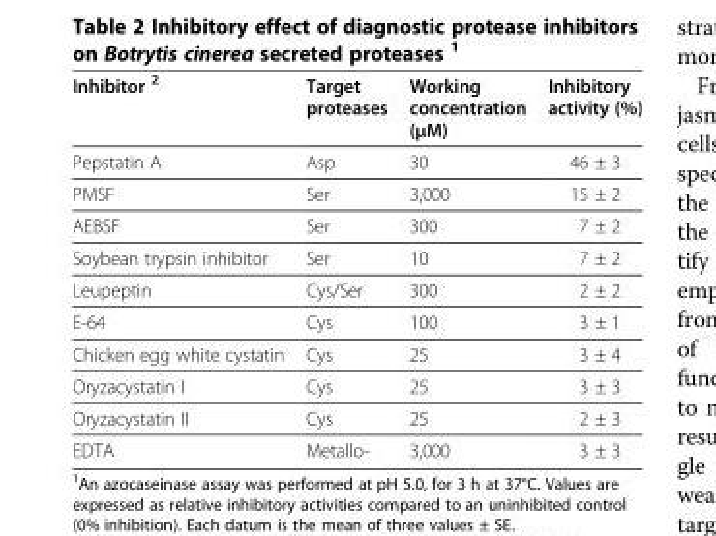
<table><thead><tr><td>Inhibitor <sup>2</sup></td><td>Target proteases</td><td>Working concentration (μM)</td><td>Inhibitory activity (%)</td></tr></thead><tbody><tr><td>Pepstatin A</td><td>Asp</td><td>30</td><td>46 ± 3</td></tr><tr><td>PMSF</td><td>Ser</td><td>3,000</td><td>15 ± 2</td></tr><tr><td>AEBSF</td><td>Ser</td><td>300</td><td>7 ± 2</td></tr><tr><td>Soybean trypsin inhibitor</td><td>Ser</td><td>10</td><td>7 ± 2</td></tr><tr><td>Leupeptin</td><td>Cys/Ser</td><td>300</td><td>2 ± 2</td></tr><tr><td>E-64</td><td>Cys</td><td>100</td><td>3 ± 1</td></tr><tr><td>Chicken egg white cystatin</td><td>Cys</td><td>25</td><td>3 ± 4</td></tr><tr><td>Oryzacystatin I</td><td>Cys</td><td>25</td><td>3 ± 3</td></tr><tr><td>Oryzacystatin II</td><td>Cys</td><td>25</td><td>2 ± 3</td></tr><tr><td>EDTA</td><td>Metallo-</td><td>3,000</td><td>3 ± 3</td></tr></tbody></table>